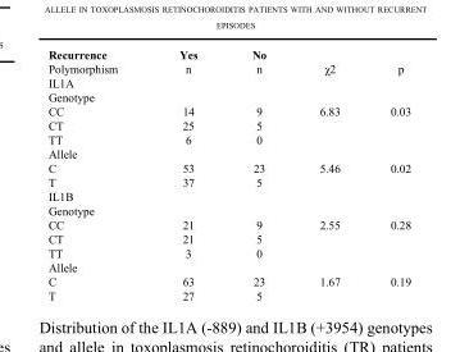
<table><thead><tr><td>Recurrence</td><td>Yes</td><td>No</td><td></td><td></td></tr></thead><tbody><tr><td>Polymorphism</td><td>n</td><td>n</td><td>χ<sup>2</sup></td><td>p</td></tr><tr><td colspan="5">IL1A</td></tr><tr><td colspan="5">Genotype</td></tr><tr><td>CC</td><td>14</td><td>9</td><td>6.83</td><td>0.03</td></tr><tr><td>CT</td><td>25</td><td>5</td><td></td><td></td></tr><tr><td>TT</td><td>6</td><td>0</td><td></td><td></td></tr><tr><td colspan="5">Allele</td></tr><tr><td>C</td><td>53</td><td>23</td><td>5.46</td><td>0.02</td></tr><tr><td>T</td><td>37</td><td>5</td><td></td><td></td></tr><tr><td colspan="5">IL1B</td></tr><tr><td colspan="5">Genotype</td></tr><tr><td>CC</td><td>21</td><td>9</td><td>2.55</td><td>0.28</td></tr><tr><td>CT</td><td>21</td><td>5</td><td></td><td></td></tr><tr><td>TT</td><td>3</td><td>0</td><td></td><td></td></tr><tr><td colspan="5">Allele</td></tr><tr><td>C</td><td>63</td><td>23</td><td>1.67</td><td>0.19</td></tr><tr><td>T</td><td>27</td><td>5</td><td></td><td></td></tr></tbody></table>